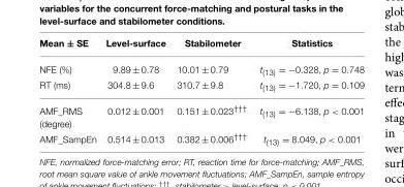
<table><thead><tr><td>Mean ± SE</td><td>Level-surface</td><td>Stabilometer</td><td>Statistics</td></tr></thead><tbody><tr><td>NFE (%)</td><td>9.89 ± 0.78</td><td>10.01 ± 0.79</td><td>t<sub>(13)</sub> = −0.328, p = 0.748</td></tr><tr><td>RT (ms)</td><td>304.8 ± 9.6</td><td>310.7 ± 9.8</td><td>t<sub>(13)</sub> = −1.720, p = 0.109</td></tr><tr><td>AMF_RMS (degree)</td><td>0.012 ± 0.001</td><td>0.151 ± 0.023<sup>†††</sup></td><td>t<sub>(13)</sub> = −6.138, p &lt; 0.001</td></tr><tr><td>AMF_SampEn</td><td>0.514 ± 0.013</td><td>0.382 ± 0.006<sup>†††</sup></td><td>t<sub>(13)</sub> = 8.049, p &lt; 0.001</td></tr></tbody></table>